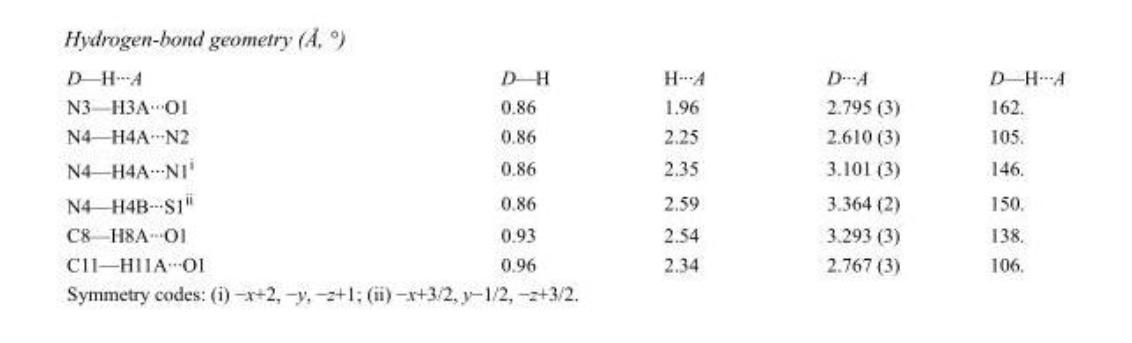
<table><tbody><tr><td>D—H···A</td><td>D—H</td><td>H···A</td><td>D···A</td><td>D—H···A</td></tr><tr><td>N3—H3A···O1</td><td>0.86</td><td>1.96</td><td>2.795 (3)</td><td>162.</td></tr><tr><td>N4—H4A···N2</td><td>0.86</td><td>2.25</td><td>2.610 (3)</td><td>105.</td></tr><tr><td>N4—H4A···N1<sup>i</sup></td><td>0.86</td><td>2.35</td><td>3.101 (3)</td><td>146.</td></tr><tr><td>N4—H4B···S1<sup>ii</sup></td><td>0.86</td><td>2.59</td><td>3.364 (2)</td><td>150.</td></tr><tr><td>C8—H8A···O1</td><td>0.93</td><td>2.54</td><td>3.293 (3)</td><td>138.</td></tr><tr><td>C11—H11A···O1</td><td>0.96</td><td>2.34</td><td>2.767 (3)</td><td>106.</td></tr></tbody></table>